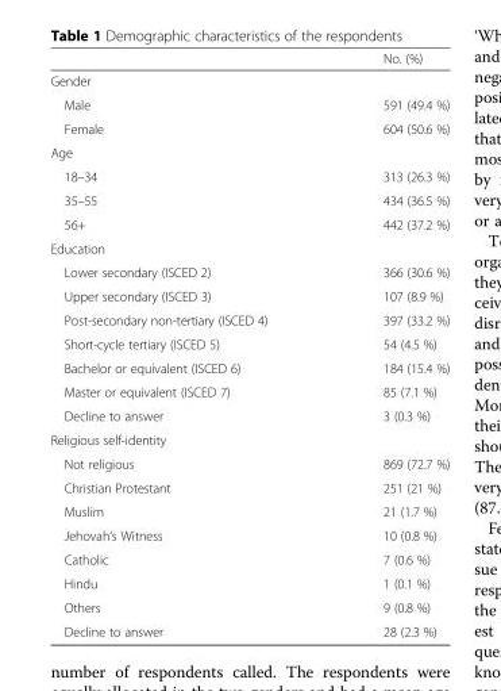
<table><thead><tr><td></td><td>No. (%)</td></tr></thead><tbody><tr><td colspan="2">Gender</td></tr><tr><td>Male</td><td>591 (49.4 %)</td></tr><tr><td>Female</td><td>604 (50.6 %)</td></tr><tr><td colspan="2">Age</td></tr><tr><td>18–34</td><td>313 (26.3 %)</td></tr><tr><td>35–55</td><td>434 (36.5 %)</td></tr><tr><td>56+</td><td>442 (37.2 %)</td></tr><tr><td colspan="2">Education</td></tr><tr><td>Lower secondary (ISCED 2)</td><td>366 (30.6 %)</td></tr><tr><td>Upper secondary (ISCED 3)</td><td>107 (8.9 %)</td></tr><tr><td>Post-secondary non-tertiary (ISCED 4)</td><td>397 (33.2 %)</td></tr><tr><td>Short-cycle tertiary (ISCED 5)</td><td>54 (4.5 %)</td></tr><tr><td>Bachelor or equivalent (ISCED 6)</td><td>184 (15.4 %)</td></tr><tr><td>Master or equivalent (ISCED 7)</td><td>85 (7.1 %)</td></tr><tr><td>Decline to answer</td><td>3 (0.3 %)</td></tr><tr><td colspan="2">Religious self-identity</td></tr><tr><td>Not religious</td><td>869 (72.7 %)</td></tr><tr><td>Christian Protestant</td><td>251 (21 %)</td></tr><tr><td>Muslim</td><td>21 (1.7 %)</td></tr><tr><td>Jehovah’s Witness</td><td>10 (0.8 %)</td></tr><tr><td>Catholic</td><td>7 (0.6 %)</td></tr><tr><td>Hindu</td><td>1 (0.1 %)</td></tr><tr><td>Others</td><td>9 (0.8 %)</td></tr><tr><td>Decline to answer</td><td>28 (2.3 %)</td></tr></tbody></table>